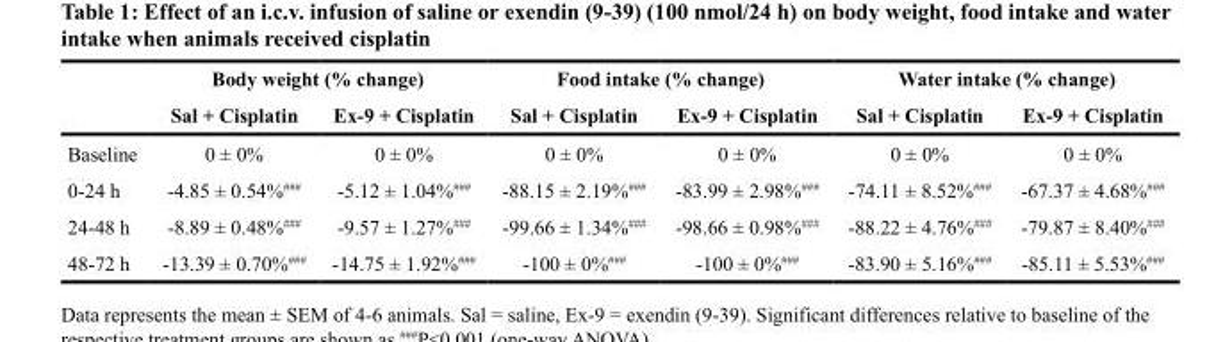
<table><thead><tr><td rowspan="2"></td><td colspan="2">Body weight (% change)</td><td colspan="2">Food intake (% change)</td><td colspan="2">Water intake (% change)</td></tr><tr><td>Sal + Cisplatin</td><td>Ex-9 + Cisplatin</td><td>Sal + Cisplatin</td><td>Ex-9 + Cisplatin</td><td>Sal + Cisplatin</td><td>Ex-9 + Cisplatin</td></tr></thead><tbody><tr><td>Baseline</td><td>0 ± 0%</td><td>0 ± 0%</td><td>0 ± 0%</td><td>0 ± 0%</td><td>0 ± 0%</td><td>0 ± 0%</td></tr><tr><td>0-24 h</td><td>-4.85 ± 0.54%<sup>###</sup></td><td>-5.12 ± 1.04%<sup>###</sup></td><td>-88.15 ± 2.19%<sup>###</sup></td><td>-83.99 ± 2.98%<sup>###</sup></td><td>-74.11 ± 8.52%<sup>###</sup></td><td>-67.37 ± 4.68%<sup>###</sup></td></tr><tr><td>24-48 h</td><td>-8.89 ± 0.48%<sup>###</sup></td><td>-9.57 ± 1.27%<sup>###</sup></td><td>-99.66 ± 1.34%<sup>###</sup></td><td>-98.66 ± 0.98%<sup>###</sup></td><td>-88.22 ± 4.76%<sup>###</sup></td><td>-79.87 ± 8.40%<sup>###</sup></td></tr><tr><td>48-72 h</td><td>-13.39 ± 0.70%<sup>###</sup></td><td>-14.75 ± 1.92%<sup>###</sup></td><td>-100 ± 0%<sup>###</sup></td><td>-100 ± 0%<sup>###</sup></td><td>-83.90 ± 5.16%<sup>###</sup></td><td>-85.11 ± 5.53%<sup>###</sup></td></tr></tbody></table>